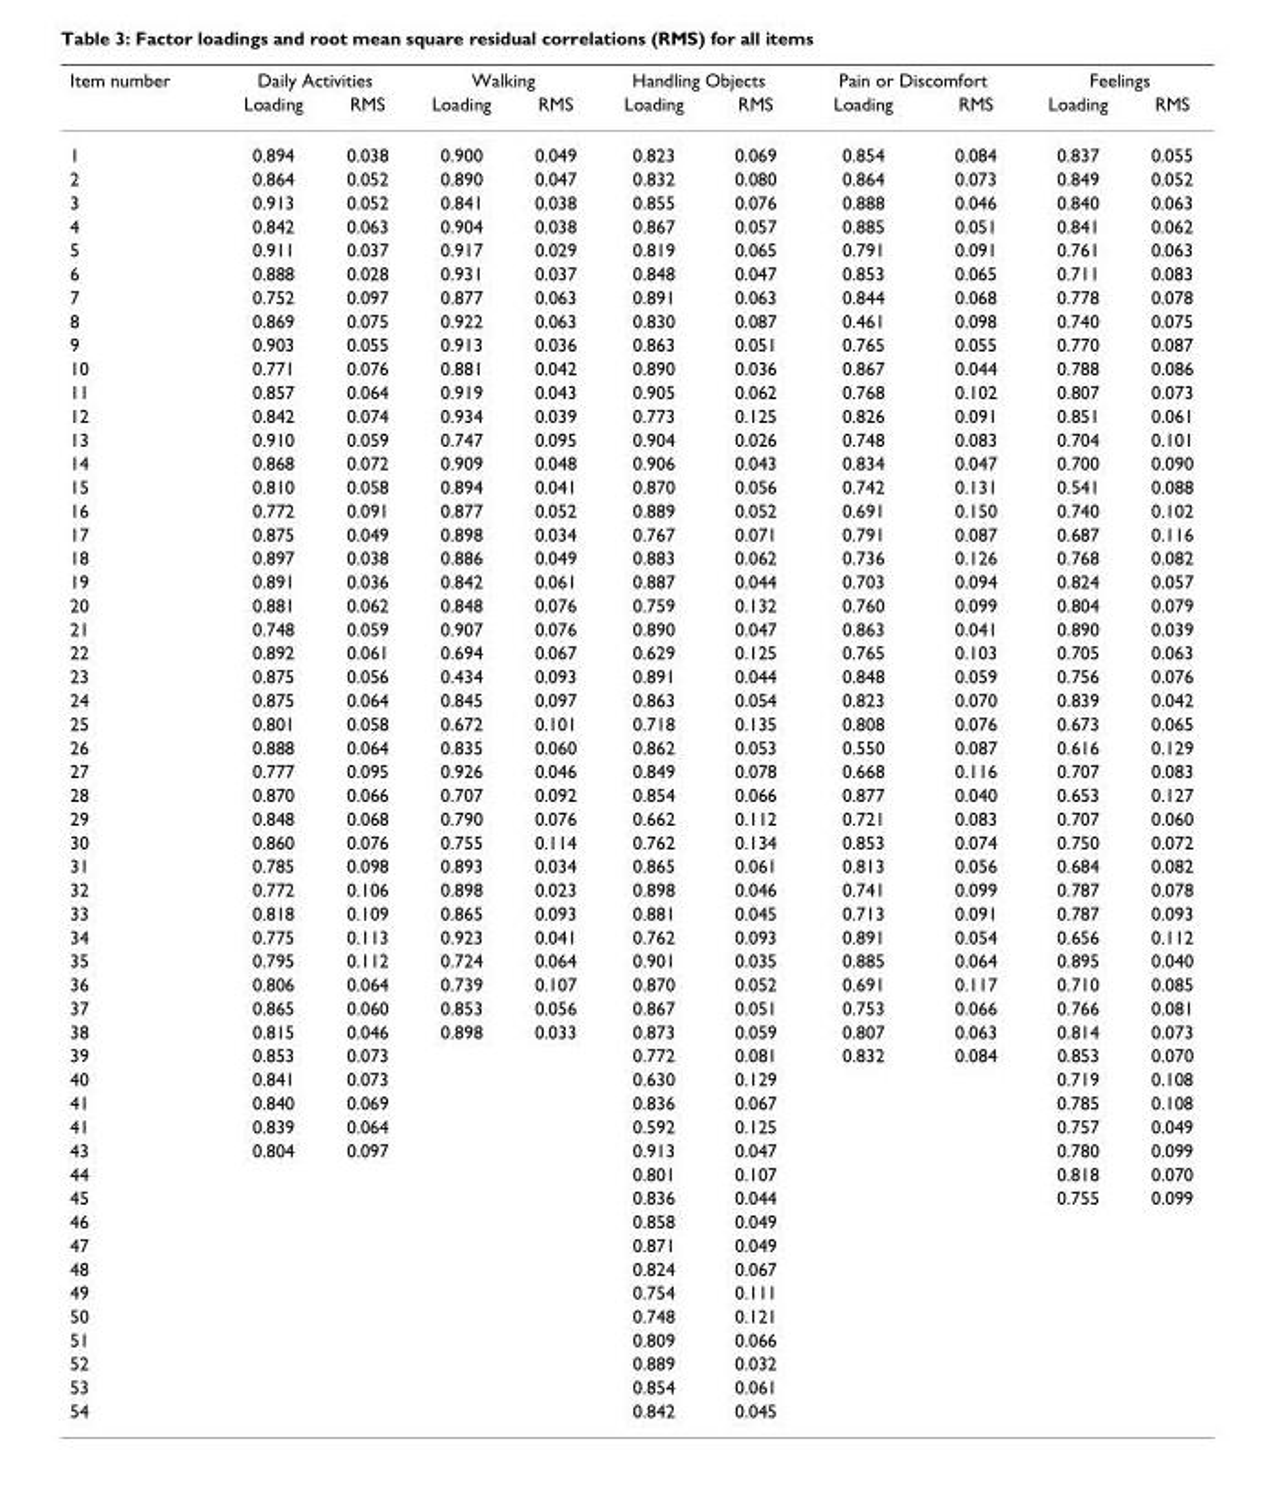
<table><thead><tr><td rowspan="2">Item number</td><td colspan="2">Daily Activities</td><td colspan="2">Walking</td><td colspan="2">Handling Objects</td><td colspan="2">Pain or Discomfort</td><td colspan="2">Feelings</td></tr><tr><td>Loading</td><td>RMS</td><td>Loading</td><td>RMS</td><td>Loading</td><td>RMS</td><td>Loading</td><td>RMS</td><td>Loading</td><td>RMS</td></tr></thead><tbody><tr><td>1</td><td>0.894</td><td>0.038</td><td>0.900</td><td>0.049</td><td>0.823</td><td>0.069</td><td>0.854</td><td>0.084</td><td>0.837</td><td>0.055</td></tr><tr><td>2</td><td>0.864</td><td>0.052</td><td>0.890</td><td>0.047</td><td>0.832</td><td>0.080</td><td>0.864</td><td>0.073</td><td>0.849</td><td>0.052</td></tr><tr><td>3</td><td>0.913</td><td>0.052</td><td>0.841</td><td>0.038</td><td>0.855</td><td>0.076</td><td>0.888</td><td>0.046</td><td>0.840</td><td>0.063</td></tr><tr><td>4</td><td>0.842</td><td>0.063</td><td>0.904</td><td>0.038</td><td>0.867</td><td>0.057</td><td>0.885</td><td>0.051</td><td>0.841</td><td>0.062</td></tr><tr><td>5</td><td>0.911</td><td>0.037</td><td>0.917</td><td>0.029</td><td>0.819</td><td>0.065</td><td>0.791</td><td>0.091</td><td>0.761</td><td>0.063</td></tr><tr><td>6</td><td>0.888</td><td>0.028</td><td>0.931</td><td>0.037</td><td>0.848</td><td>0.047</td><td>0.853</td><td>0.065</td><td>0.711</td><td>0.083</td></tr><tr><td>7</td><td>0.752</td><td>0.097</td><td>0.877</td><td>0.063</td><td>0.891</td><td>0.063</td><td>0.844</td><td>0.068</td><td>0.778</td><td>0.078</td></tr><tr><td>8</td><td>0.869</td><td>0.075</td><td>0.922</td><td>0.063</td><td>0.830</td><td>0.087</td><td>0.461</td><td>0.098</td><td>0.740</td><td>0.075</td></tr><tr><td>9</td><td>0.903</td><td>0.055</td><td>0.913</td><td>0.036</td><td>0.863</td><td>0.051</td><td>0.765</td><td>0.055</td><td>0.770</td><td>0.087</td></tr><tr><td>10</td><td>0.771</td><td>0.076</td><td>0.881</td><td>0.042</td><td>0.890</td><td>0.036</td><td>0.867</td><td>0.044</td><td>0.788</td><td>0.086</td></tr><tr><td>11</td><td>0.857</td><td>0.064</td><td>0.919</td><td>0.043</td><td>0.905</td><td>0.062</td><td>0.768</td><td>0.102</td><td>0.807</td><td>0.073</td></tr><tr><td>12</td><td>0.842</td><td>0.074</td><td>0.934</td><td>0.039</td><td>0.773</td><td>0.125</td><td>0.826</td><td>0.091</td><td>0.851</td><td>0.061</td></tr><tr><td>13</td><td>0.910</td><td>0.059</td><td>0.747</td><td>0.095</td><td>0.904</td><td>0.026</td><td>0.748</td><td>0.083</td><td>0.704</td><td>0.101</td></tr><tr><td>14</td><td>0.868</td><td>0.072</td><td>0.909</td><td>0.048</td><td>0.906</td><td>0.043</td><td>0.834</td><td>0.047</td><td>0.700</td><td>0.090</td></tr><tr><td>15</td><td>0.810</td><td>0.058</td><td>0.894</td><td>0.041</td><td>0.870</td><td>0.056</td><td>0.742</td><td>0.131</td><td>0.541</td><td>0.088</td></tr><tr><td>16</td><td>0.772</td><td>0.091</td><td>0.877</td><td>0.052</td><td>0.889</td><td>0.052</td><td>0.691</td><td>0.150</td><td>0.740</td><td>0.102</td></tr><tr><td>17</td><td>0.875</td><td>0.049</td><td>0.898</td><td>0.034</td><td>0.767</td><td>0.071</td><td>0.791</td><td>0.087</td><td>0.687</td><td>0.116</td></tr><tr><td>18</td><td>0.897</td><td>0.038</td><td>0.886</td><td>0.049</td><td>0.883</td><td>0.062</td><td>0.736</td><td>0.126</td><td>0.768</td><td>0.082</td></tr><tr><td>19</td><td>0.891</td><td>0.036</td><td>0.842</td><td>0.061</td><td>0.887</td><td>0.044</td><td>0.703</td><td>0.094</td><td>0.824</td><td>0.057</td></tr><tr><td>20</td><td>0.881</td><td>0.062</td><td>0.848</td><td>0.076</td><td>0.759</td><td>0.132</td><td>0.760</td><td>0.099</td><td>0.804</td><td>0.079</td></tr><tr><td>21</td><td>0.748</td><td>0.059</td><td>0.907</td><td>0.076</td><td>0.890</td><td>0.047</td><td>0.863</td><td>0.041</td><td>0.890</td><td>0.039</td></tr><tr><td>22</td><td>0.892</td><td>0.061</td><td>0.694</td><td>0.067</td><td>0.629</td><td>0.125</td><td>0.765</td><td>0.103</td><td>0.705</td><td>0.063</td></tr><tr><td>23</td><td>0.875</td><td>0.056</td><td>0.434</td><td>0.093</td><td>0.891</td><td>0.044</td><td>0.848</td><td>0.059</td><td>0.756</td><td>0.076</td></tr><tr><td>24</td><td>0.875</td><td>0.064</td><td>0.845</td><td>0.097</td><td>0.863</td><td>0.054</td><td>0.823</td><td>0.070</td><td>0.839</td><td>0.042</td></tr><tr><td>25</td><td>0.801</td><td>0.058</td><td>0.672</td><td>0.101</td><td>0.718</td><td>0.135</td><td>0.808</td><td>0.076</td><td>0.673</td><td>0.065</td></tr><tr><td>26</td><td>0.888</td><td>0.064</td><td>0.835</td><td>0.060</td><td>0.862</td><td>0.053</td><td>0.550</td><td>0.087</td><td>0.616</td><td>0.129</td></tr><tr><td>27</td><td>0.777</td><td>0.095</td><td>0.926</td><td>0.046</td><td>0.849</td><td>0.078</td><td>0.668</td><td>0.116</td><td>0.707</td><td>0.083</td></tr><tr><td>28</td><td>0.870</td><td>0.066</td><td>0.707</td><td>0.092</td><td>0.854</td><td>0.066</td><td>0.877</td><td>0.040</td><td>0.653</td><td>0.127</td></tr><tr><td>29</td><td>0.848</td><td>0.068</td><td>0.790</td><td>0.076</td><td>0.662</td><td>0.112</td><td>0.721</td><td>0.083</td><td>0.707</td><td>0.060</td></tr><tr><td>30</td><td>0.860</td><td>0.076</td><td>0.755</td><td>0.114</td><td>0.762</td><td>0.134</td><td>0.853</td><td>0.074</td><td>0.750</td><td>0.072</td></tr><tr><td>31</td><td>0.785</td><td>0.098</td><td>0.893</td><td>0.034</td><td>0.865</td><td>0.061</td><td>0.813</td><td>0.056</td><td>0.684</td><td>0.082</td></tr><tr><td>32</td><td>0.772</td><td>0.106</td><td>0.898</td><td>0.023</td><td>0.898</td><td>0.046</td><td>0.741</td><td>0.099</td><td>0.787</td><td>0.078</td></tr><tr><td>33</td><td>0.818</td><td>0.109</td><td>0.865</td><td>0.093</td><td>0.881</td><td>0.045</td><td>0.713</td><td>0.091</td><td>0.787</td><td>0.093</td></tr><tr><td>34</td><td>0.775</td><td>0.113</td><td>0.923</td><td>0.041</td><td>0.762</td><td>0.093</td><td>0.891</td><td>0.054</td><td>0.656</td><td>0.112</td></tr><tr><td>35</td><td>0.795</td><td>0.112</td><td>0.724</td><td>0.064</td><td>0.901</td><td>0.035</td><td>0.885</td><td>0.064</td><td>0.895</td><td>0.040</td></tr><tr><td>36</td><td>0.806</td><td>0.064</td><td>0.739</td><td>0.107</td><td>0.870</td><td>0.052</td><td>0.691</td><td>0.117</td><td>0.710</td><td>0.085</td></tr><tr><td>37</td><td>0.865</td><td>0.060</td><td>0.853</td><td>0.056</td><td>0.867</td><td>0.051</td><td>0.753</td><td>0.066</td><td>0.766</td><td>0.081</td></tr><tr><td>38</td><td>0.815</td><td>0.046</td><td>0.898</td><td>0.033</td><td>0.873</td><td>0.059</td><td>0.807</td><td>0.063</td><td>0.814</td><td>0.073</td></tr><tr><td>39</td><td>0.853</td><td>0.073</td><td></td><td></td><td>0.772</td><td>0.081</td><td>0.832</td><td>0.084</td><td>0.853</td><td>0.070</td></tr><tr><td>40</td><td>0.841</td><td>0.073</td><td></td><td></td><td>0.630</td><td>0.129</td><td></td><td></td><td>0.719</td><td>0.108</td></tr><tr><td>41</td><td>0.840</td><td>0.069</td><td></td><td></td><td>0.836</td><td>0.067</td><td></td><td></td><td>0.785</td><td>0.108</td></tr><tr><td>41</td><td>0.839</td><td>0.064</td><td></td><td></td><td>0.592</td><td>0.125</td><td></td><td></td><td>0.757</td><td>0.049</td></tr><tr><td>43</td><td>0.804</td><td>0.097</td><td></td><td></td><td>0.913</td><td>0.047</td><td></td><td></td><td>0.780</td><td>0.099</td></tr><tr><td>44</td><td></td><td></td><td></td><td></td><td>0.801</td><td>0.107</td><td></td><td></td><td>0.818</td><td>0.070</td></tr><tr><td>45</td><td></td><td></td><td></td><td></td><td>0.836</td><td>0.044</td><td></td><td></td><td>0.755</td><td>0.099</td></tr><tr><td>46</td><td></td><td></td><td></td><td></td><td>0.858</td><td>0.049</td><td></td><td></td><td></td><td></td></tr><tr><td>47</td><td></td><td></td><td></td><td></td><td>0.871</td><td>0.049</td><td></td><td></td><td></td><td></td></tr><tr><td>48</td><td></td><td></td><td></td><td></td><td>0.824</td><td>0.067</td><td></td><td></td><td></td><td></td></tr><tr><td>49</td><td></td><td></td><td></td><td></td><td>0.754</td><td>0.111</td><td></td><td></td><td></td><td></td></tr><tr><td>50</td><td></td><td></td><td></td><td></td><td>0.748</td><td>0.121</td><td></td><td></td><td></td><td></td></tr><tr><td>51</td><td></td><td></td><td></td><td></td><td>0.809</td><td>0.066</td><td></td><td></td><td></td><td></td></tr><tr><td>52</td><td></td><td></td><td></td><td></td><td>0.889</td><td>0.032</td><td></td><td></td><td></td><td></td></tr><tr><td>53</td><td></td><td></td><td></td><td></td><td>0.854</td><td>0.061</td><td></td><td></td><td></td><td></td></tr><tr><td>54</td><td></td><td></td><td></td><td></td><td>0.842</td><td>0.045</td><td></td><td></td><td></td><td></td></tr></tbody></table>